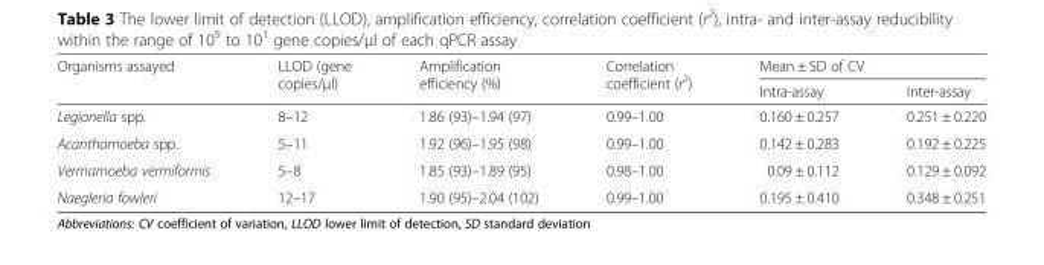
<table><thead><tr><td rowspan="2">Organisms assayed</td><td rowspan="2">LLOD (gene copies/μl)</td><td rowspan="2">Amplification efficiency (%)</td><td rowspan="2">Correlation coefficient (r<sup>2</sup>)</td><td colspan="2">Mean ± SD of CV</td></tr><tr><td>Intra-assay</td><td>Inter-assay</td></tr></thead><tbody><tr><td>Legionella spp.</td><td>8–12</td><td>1.86 (93)–1.94 (97)</td><td>0.99–1.00</td><td>0.160 ± 0.257</td><td>0.251 ± 0.220</td></tr><tr><td>Acanthamoeba spp.</td><td>5–11</td><td>1.92 (96)–1.95 (98)</td><td>0.99–1.00</td><td>0.142 ± 0.283</td><td>0.192 ± 0.225</td></tr><tr><td>Vermamoeba vermiformis</td><td>5–8</td><td>1.85 (93)–1.89 (95)</td><td>0.98–1.00</td><td>0.09 ± 0.112</td><td>0.129 ± 0.092</td></tr><tr><td>Naegleria fowleri</td><td>12–17</td><td>1.90 (95)–2.04 (102)</td><td>0.99–1.00</td><td>0.195 ± 0.410</td><td>0.348 ± 0.251</td></tr></tbody></table>